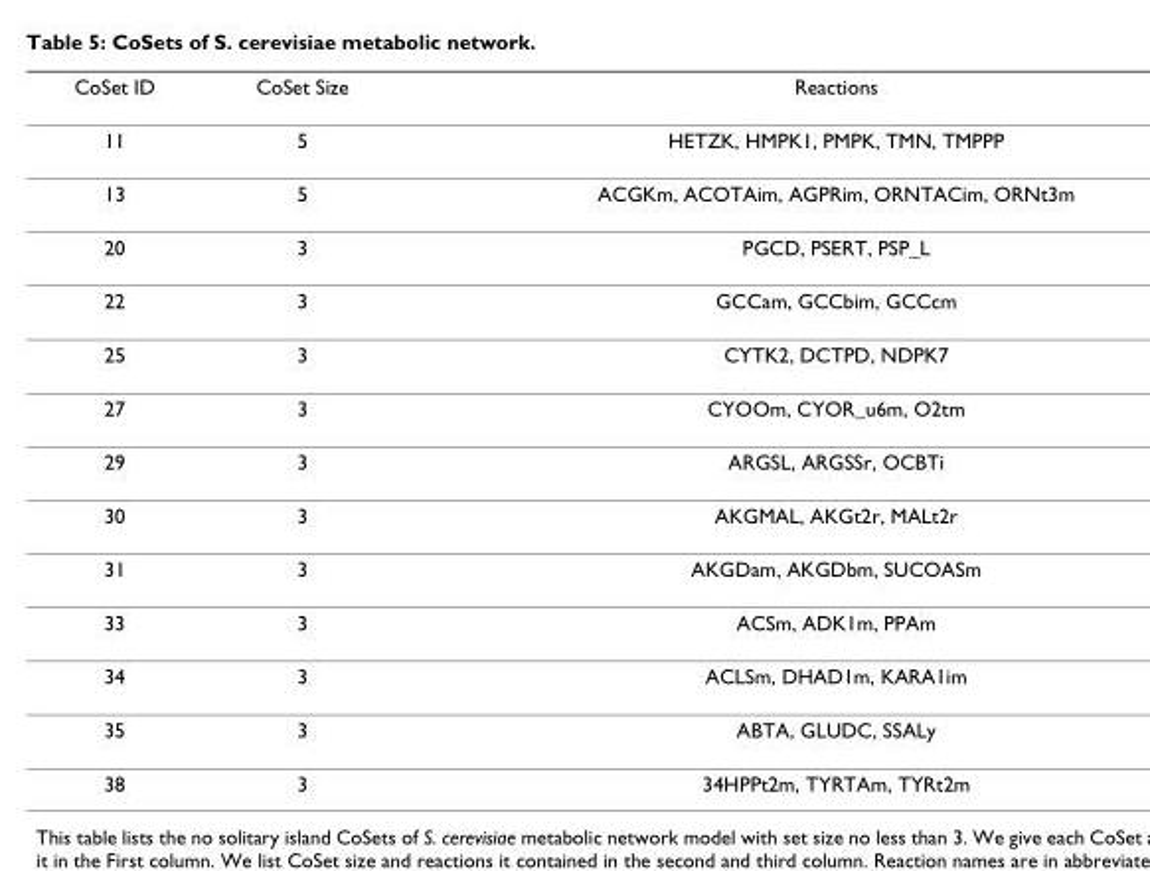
<table><thead><tr><td>CoSet ID</td><td>CoSet Size</td><td>Reactions</td></tr></thead><tbody><tr><td>11</td><td>5</td><td>HETZK, HMPK1, PMPK, TMN, TMPPP</td></tr><tr><td>13</td><td>5</td><td>ACGKm, ACOTAim, AGPRim, ORNTACim, ORNt3m</td></tr><tr><td>20</td><td>3</td><td>PGCD, PSERT, PSP_L</td></tr><tr><td>22</td><td>3</td><td>GCCam, GCCbim, GCCcm</td></tr><tr><td>25</td><td>3</td><td>CYTK2, DCTPD, NDPK7</td></tr><tr><td>27</td><td>3</td><td>CYOOm, CYOR_u6m, O2tm</td></tr><tr><td>29</td><td>3</td><td>ARGSL, ARGSSr, OCBTi</td></tr><tr><td>30</td><td>3</td><td>AKGMAL, AKGt2r, MALt2r</td></tr><tr><td>31</td><td>3</td><td>AKGDam, AKGDbm, SUCOASm</td></tr><tr><td>33</td><td>3</td><td>ACSm, ADK1m, PPAm</td></tr><tr><td>34</td><td>3</td><td>ACLSm, DHAD1m, KARA1im</td></tr><tr><td>35</td><td>3</td><td>ABTA, GLUDC, SSALy</td></tr><tr><td>38</td><td>3</td><td>34HPPt2m, TYRTAm, TYRt2m</td></tr></tbody></table>